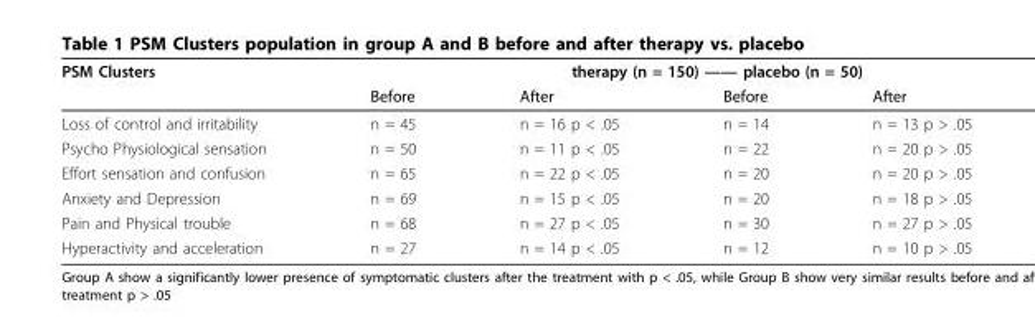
<table><thead><tr><td rowspan="2">PSM Clusters</td><td colspan="4">therapy (n = 150) —— placebo (n = 50)</td></tr><tr><td>Before</td><td>After</td><td>Before</td><td>After</td></tr></thead><tbody><tr><td>Loss of control and irritability</td><td>n = 45</td><td>n = 16 p &lt; .05</td><td>n = 14</td><td>n = 13 p &gt; .05</td></tr><tr><td>Psycho Physiological sensation</td><td>n = 50</td><td>n = 11 p &lt; .05</td><td>n = 22</td><td>n = 20 p &gt; .05</td></tr><tr><td>Effort sensation and confusion</td><td>n = 65</td><td>n = 22 p &lt; .05</td><td>n = 20</td><td>n = 20 p &gt; .05</td></tr><tr><td>Anxiety and Depression</td><td>n = 69</td><td>n = 15 p &lt; .05</td><td>n = 20</td><td>n = 18 p &gt; .05</td></tr><tr><td>Pain and Physical trouble</td><td>n = 68</td><td>n = 27 p &lt; .05</td><td>n = 30</td><td>n = 27 p &gt; .05</td></tr><tr><td>Hyperactivity and acceleration</td><td>n = 27</td><td>n = 14 p &lt; .05</td><td>n = 12</td><td>n = 10 p &gt; .05</td></tr></tbody></table>